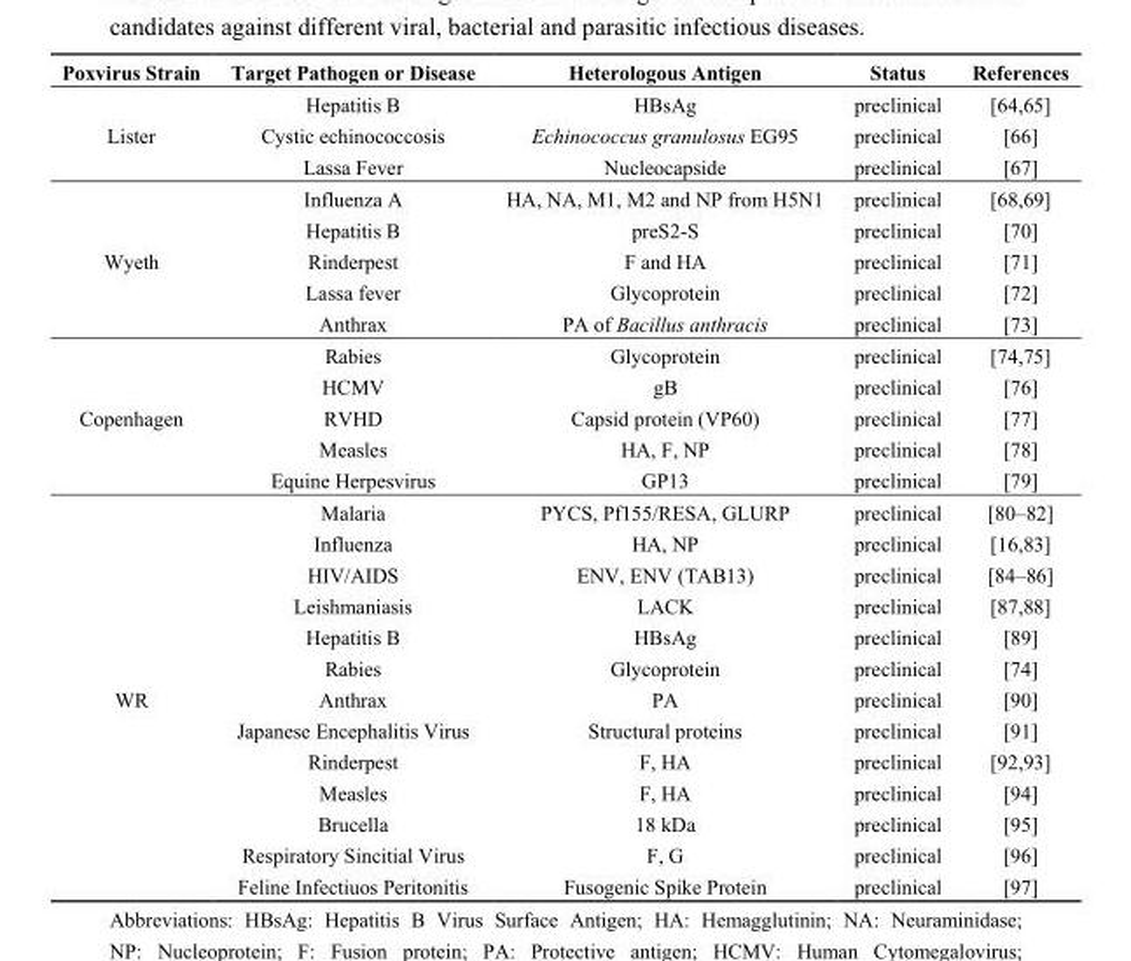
<table><thead><tr><td>Poxvirus Strain</td><td>Target Pathogen or Disease</td><td>Heterologous Antigen</td><td>Status</td><td>References</td></tr></thead><tbody><tr><td rowspan="3">Lister</td><td>Hepatitis B</td><td>HBsAg</td><td>preclinical</td><td>[64,65]</td></tr><tr><td>Cystic echinococcosis</td><td>Echinococcus granulosus EG95</td><td>preclinical</td><td>[66]</td></tr><tr><td>Lassa Fever</td><td>Nucleocapside</td><td>preclinical</td><td>[67]</td></tr><tr><td rowspan="5">Wyeth</td><td>Influenza A</td><td>HA, NA, M1, M2 and NP from H5N1</td><td>preclinical</td><td>[68,69]</td></tr><tr><td>Hepatitis B</td><td>preS2-S</td><td>preclinical</td><td>[70]</td></tr><tr><td>Rinderpest</td><td>F and HA</td><td>preclinical</td><td>[71]</td></tr><tr><td>Lassa fever</td><td>Glycoprotein</td><td>preclinical</td><td>[72]</td></tr><tr><td>Anthrax</td><td>PA of Bacillus anthracis</td><td>preclinical</td><td>[73]</td></tr><tr><td rowspan="5">Copenhagen</td><td>Rabies</td><td>Glycoprotein</td><td>preclinical</td><td>[74,75]</td></tr><tr><td>HCMV</td><td>gB</td><td>preclinical</td><td>[76]</td></tr><tr><td>RVHD</td><td>Capsid protein (VP60)</td><td>preclinical</td><td>[77]</td></tr><tr><td>Measles</td><td>HA, F, NP</td><td>preclinical</td><td>[78]</td></tr><tr><td>Equine Herpesvirus</td><td>GP13</td><td>preclinical</td><td>[79]</td></tr><tr><td rowspan="13">WR</td><td>Malaria</td><td>PYCS, Pf155/RESA, GLURP</td><td>preclinical</td><td>[80–82]</td></tr><tr><td>Influenza</td><td>HA, NP</td><td>preclinical</td><td>[16,83]</td></tr><tr><td>HIV/AIDS</td><td>ENV, ENV (TAB13)</td><td>preclinical</td><td>[84–86]</td></tr><tr><td>Leishmaniasis</td><td>LACK</td><td>preclinical</td><td>[87,88]</td></tr><tr><td>Hepatitis B</td><td>HBsAg</td><td>preclinical</td><td>[89]</td></tr><tr><td>Rabies</td><td>Glycoprotein</td><td>preclinical</td><td>[74]</td></tr><tr><td>Anthrax</td><td>PA</td><td>preclinical</td><td>[90]</td></tr><tr><td>Japanese Encephalitis Virus</td><td>Structural proteins</td><td>preclinical</td><td>[91]</td></tr><tr><td>Rinderpest</td><td>F, HA</td><td>preclinical</td><td>[92,93]</td></tr><tr><td>Measles</td><td>F, HA</td><td>preclinical</td><td>[94]</td></tr><tr><td>Brucella</td><td>18 kDa</td><td>preclinical</td><td>[95]</td></tr><tr><td>Respiratory Sincitial Virus</td><td>F, G</td><td>preclinical</td><td>[96]</td></tr><tr><td>Feline Infectiuos Peritonitis</td><td>Fusogenic Spike Protein</td><td>preclinical</td><td>[97]</td></tr></tbody></table>